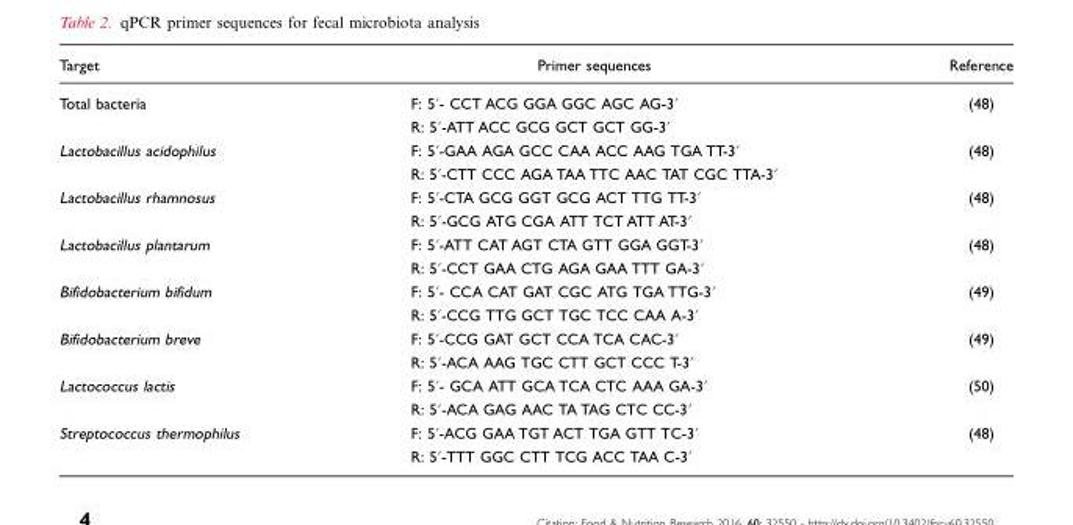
<table><thead><tr><td>Target</td><td>Primer sequences</td><td>Reference</td></tr></thead><tbody><tr><td rowspan="2">Total bacteria</td><td>F: 5′- CCT ACG GGA GGC AGC AG-3′</td><td>(48)</td></tr><tr><td>R: 5′-ATT ACC GCG GCT GCT GG-3′</td><td></td></tr><tr><td rowspan="2">Lactobacillus acidophilus</td><td>F: 5′-GAA AGA GCC CAA ACC AAG TGA TT-3′</td><td>(48)</td></tr><tr><td>R: 5′-CTT CCC AGA TAA TTC AAC TAT CGC TTA-3′</td><td></td></tr><tr><td rowspan="2">Lactobacillus rhamnosus</td><td>F: 5′-CTA GCG GGT GCG ACT TTG TT-3′</td><td>(48)</td></tr><tr><td>R: 5′-GCG ATG CGA ATT TCT ATT AT-3′</td><td></td></tr><tr><td rowspan="2">Lactobacillus plantarum</td><td>F: 5′-ATT CAT AGT CTA GTT GGA GGT-3′</td><td>(48)</td></tr><tr><td>R: 5′-CCT GAA CTG AGA GAA TTT GA-3′</td><td></td></tr><tr><td rowspan="2">Bifidobacterium bifidum</td><td>F: 5′- CCA CAT GAT CGC ATG TGA TTG-3′</td><td>(49)</td></tr><tr><td>R: 5′-CCG TTG GCT TGC TCC CAA A-3′</td><td></td></tr><tr><td rowspan="2">Bifidobacterium breve</td><td>F: 5′-CCG GAT GCT CCA TCA CAC-3′</td><td>(49)</td></tr><tr><td>R: 5′-ACA AAG TGC CTT GCT CCC T-3′</td><td></td></tr><tr><td rowspan="2">Lactococcus lactis</td><td>F: 5′- GCA ATT GCA TCA CTC AAA GA-3′</td><td>(50)</td></tr><tr><td>R: 5′-ACA GAG AAC TA TAG CTC CC-3′</td><td></td></tr><tr><td rowspan="2">Streptococcus thermophilus</td><td>F: 5′-ACG GAA TGT ACT TGA GTT TC-3′</td><td>(48)</td></tr><tr><td>R: 5′-TTT GGC CTT TCG ACC TAA C-3′</td><td></td></tr></tbody></table>